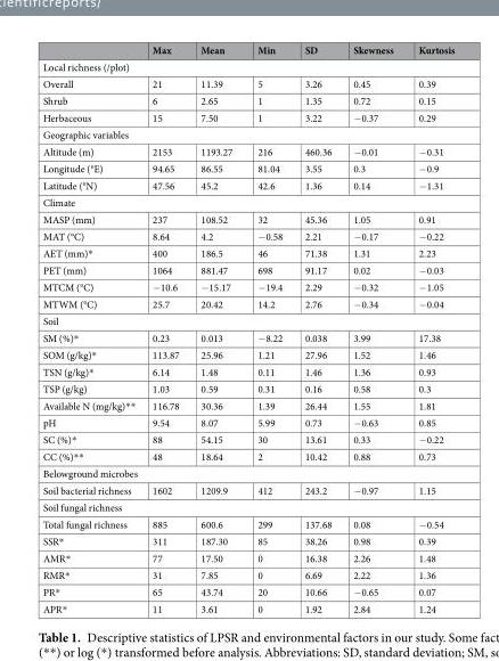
<table><thead><tr><td></td><td>Max</td><td>Mean</td><td>Min</td><td>SD</td><td>Skewness</td><td>Kurtosis</td></tr></thead><tbody><tr><td colspan="7">Local richness (/plot)</td></tr><tr><td>Overall</td><td>21</td><td>11.39</td><td>5</td><td>3.26</td><td>0.45</td><td>0.39</td></tr><tr><td>Shrub</td><td>6</td><td>2.65</td><td>1</td><td>1.35</td><td>0.72</td><td>0.15</td></tr><tr><td>Herbaceous</td><td>15</td><td>7.50</td><td>1</td><td>3.22</td><td>−0.37</td><td>0.29</td></tr><tr><td colspan="7">Geographic variables</td></tr><tr><td>Altitude (m)</td><td>2153</td><td>1193.27</td><td>216</td><td>460.36</td><td>−0.01</td><td>−0.31</td></tr><tr><td>Longitude (°E)</td><td>94.65</td><td>86.55</td><td>81.04</td><td>3.55</td><td>0.3</td><td>−0.9</td></tr><tr><td>Latitude (°N)</td><td>47.56</td><td>45.2</td><td>42.6</td><td>1.36</td><td>0.14</td><td>−1.31</td></tr><tr><td colspan="7">Climate</td></tr><tr><td>MASP (mm)</td><td>237</td><td>108.52</td><td>32</td><td>45.36</td><td>1.05</td><td>0.91</td></tr><tr><td>MAT (°C)</td><td>8.64</td><td>4.2</td><td>−0.58</td><td>2.21</td><td>−0.17</td><td>−0.22</td></tr><tr><td>AET (mm)*</td><td>400</td><td>186.5</td><td>46</td><td>71.38</td><td>1.31</td><td>2.23</td></tr><tr><td>PET (mm)</td><td>1064</td><td>881.47</td><td>698</td><td>91.17</td><td>0.02</td><td>−0.03</td></tr><tr><td>MTCM (°C)</td><td>−10.6</td><td>−15.17</td><td>−19.4</td><td>2.29</td><td>−0.32</td><td>−1.05</td></tr><tr><td>MTWM (°C)</td><td>25.7</td><td>20.42</td><td>14.2</td><td>2.76</td><td>−0.34</td><td>−0.04</td></tr><tr><td colspan="7">Soil</td></tr><tr><td>SM (%)*</td><td>0.23</td><td>0.013</td><td>−8.22</td><td>0.038</td><td>3.99</td><td>17.38</td></tr><tr><td>SOM (g/kg)*</td><td>113.87</td><td>25.96</td><td>1.21</td><td>27.96</td><td>1.52</td><td>1.46</td></tr><tr><td>TSN (g/kg)*</td><td>6.14</td><td>1.48</td><td>0.11</td><td>1.46</td><td>1.36</td><td>0.93</td></tr><tr><td>TSP (g/kg)</td><td>1.03</td><td>0.59</td><td>0.31</td><td>0.16</td><td>0.58</td><td>0.3</td></tr><tr><td>Available N (mg/kg)**</td><td>116.78</td><td>30.36</td><td>1.39</td><td>26.44</td><td>1.55</td><td>1.81</td></tr><tr><td>pH</td><td>9.54</td><td>8.07</td><td>5.99</td><td>0.73</td><td>−0.63</td><td>0.85</td></tr><tr><td>SC (%)*</td><td>88</td><td>54.15</td><td>30</td><td>13.61</td><td>0.33</td><td>−0.22</td></tr><tr><td>CC (%)**</td><td>48</td><td>18.64</td><td>2</td><td>10.42</td><td>0.88</td><td>0.73</td></tr><tr><td colspan="7">Belowground microbes</td></tr><tr><td>Soil bacterial richness</td><td>1602</td><td>1209.9</td><td>412</td><td>243.2</td><td>−0.97</td><td>1.15</td></tr><tr><td colspan="7">Soil fungal richness</td></tr><tr><td>Total fungal richness</td><td>885</td><td>600.6</td><td>299</td><td>137.68</td><td>0.08</td><td>−0.54</td></tr><tr><td>SSR*</td><td>311</td><td>187.30</td><td>85</td><td>38.26</td><td>0.98</td><td>0.39</td></tr><tr><td>AMR*</td><td>77</td><td>17.50</td><td>0</td><td>16.38</td><td>2.26</td><td>1.48</td></tr><tr><td>RMR*</td><td>31</td><td>7.85</td><td>0</td><td>6.69</td><td>2.22</td><td>1.36</td></tr><tr><td>PR*</td><td>65</td><td>43.74</td><td>20</td><td>10.66</td><td>−0.65</td><td>0.07</td></tr><tr><td>APR*</td><td>11</td><td>3.61</td><td>0</td><td>1.92</td><td>2.84</td><td>1.24</td></tr></tbody></table>